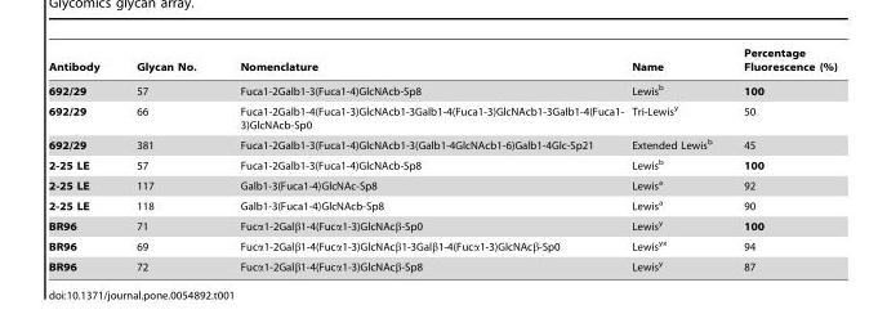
<table><thead><tr><td>Antibody</td><td>Glycan No.</td><td>Nomenclature</td><td>Name</td><td>Percentage Fluorescence (%)</td></tr></thead><tbody><tr><td>692/29</td><td>57</td><td>Fuca1-2Galb1-3(Fuca1-4)GlcNAcb-Sp8</td><td>Lewis<sup>b</sup></td><td>100</td></tr><tr><td>692/29</td><td>66</td><td>Fuca1-2Galb1-4(Fuca1-3)GlcNAcb1-3Galb1-4(Fuca1-3)GlcNAcb1-3Galb1-4(Fuca1- 3)GlcNAcb-Sp0</td><td>Tri-Lewis<sup>y</sup></td><td>50</td></tr><tr><td>692/29</td><td>381</td><td>Fuca1-2Galb1-3(Fuca1-4)GlcNAcb1-3(Galb1-4GlcNAcb1-6)Galb1-4Glc-Sp21</td><td>Extended Lewis<sup>b</sup></td><td>45</td></tr><tr><td>2-25 LE</td><td>57</td><td>Fuca1-2Galb1-3(Fuca1-4)GlcNAcb-Sp8</td><td>Lewis<sup>b</sup></td><td>100</td></tr><tr><td>2-25 LE</td><td>117</td><td>Galb1-3(Fuca1-4)GlcNAc-Sp8</td><td>Lewis<sup>a</sup></td><td>92</td></tr><tr><td>2-25 LE</td><td>118</td><td>Galb1-3(Fuca1-4)GlcNAcb-Sp8</td><td>Lewis<sup>a</sup></td><td>90</td></tr><tr><td>BR96</td><td>71</td><td>Fucα1-2Galβ1-4(Fucα1-3)GlcNAcβ-Sp0</td><td>Lewis<sup>y</sup></td><td>100</td></tr><tr><td>BR96</td><td>69</td><td>Fucα1-2Galβ1-4(Fucα1-3)GlcNAcβ1-3Galβ1-4(Fucα1-3)GlcNAcβ-Sp0</td><td>Lewis<sup>yx</sup></td><td>94</td></tr><tr><td>BR96</td><td>72</td><td>Fucα1-2Galβ1-4(Fucα1-3)GlcNAcβ-Sp8</td><td>Lewis<sup>y</sup></td><td>87</td></tr></tbody></table>